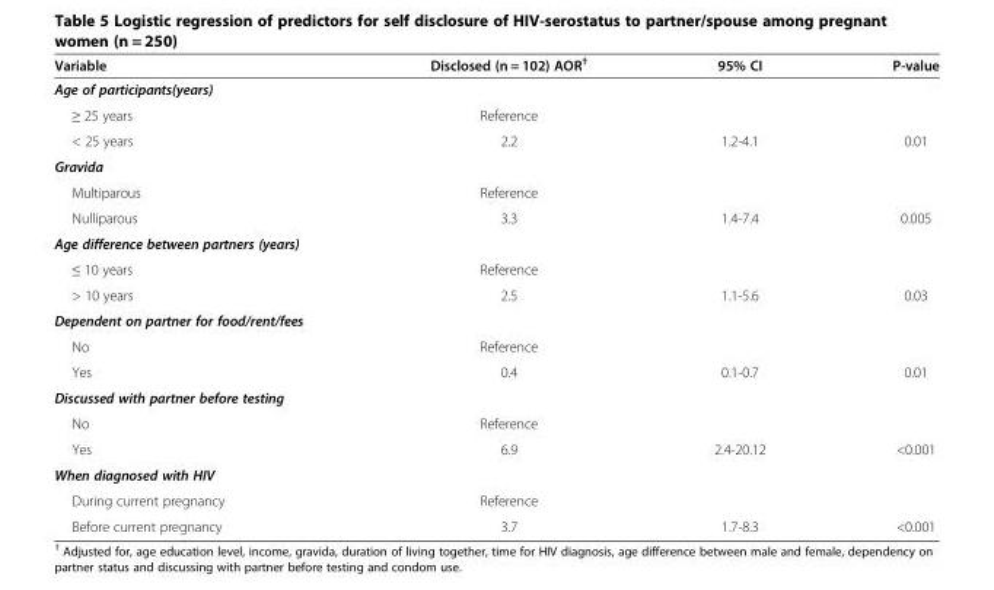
<table><thead><tr><td>Variable</td><td>Disclosed (n = 102) AOR<sup>†</sup></td><td>95% CI</td><td>P-value</td></tr></thead><tbody><tr><td colspan="4">Age of participants(years)</td></tr><tr><td>≥ 25 years</td><td>Reference</td><td></td><td></td></tr><tr><td>&lt; 25 years</td><td>2.2</td><td>1.2-4.1</td><td>0.01</td></tr><tr><td colspan="4">Gravida</td></tr><tr><td>Multiparous</td><td>Reference</td><td></td><td></td></tr><tr><td>Nulliparous</td><td>3.3</td><td>1.4-7.4</td><td>0.005</td></tr><tr><td colspan="4">Age difference between partners (years)</td></tr><tr><td>≤ 10 years</td><td>Reference</td><td></td><td></td></tr><tr><td>&gt; 10 years</td><td>2.5</td><td>1.1-5.6</td><td>0.03</td></tr><tr><td colspan="4">Dependent on partner for food/rent/fees</td></tr><tr><td>No</td><td>Reference</td><td></td><td></td></tr><tr><td>Yes</td><td>0.4</td><td>0.1-0.7</td><td>0.01</td></tr><tr><td colspan="4">Discussed with partner before testing</td></tr><tr><td>No</td><td>Reference</td><td></td><td></td></tr><tr><td>Yes</td><td>6.9</td><td>2.4-20.12</td><td>&lt;0.001</td></tr><tr><td colspan="4">When diagnosed with HIV</td></tr><tr><td>During current pregnancy</td><td>Reference</td><td></td><td></td></tr><tr><td>Before current pregnancy</td><td>3.7</td><td>1.7-8.3</td><td>&lt;0.001</td></tr></tbody></table>